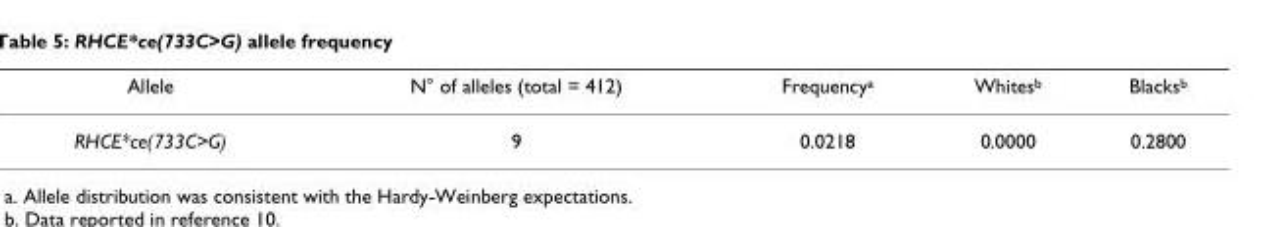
<table><thead><tr><td>Allele</td><td>N° of alleles (total = 412)</td><td>Frequency<sup>a</sup></td><td>Whites<sup>b</sup></td><td>Blacks<sup>b</sup></td></tr></thead><tbody><tr><td>RHCE*ce(733C&gt;G)</td><td>9</td><td>0.0218</td><td>0.0000</td><td>0.2800</td></tr></tbody></table>